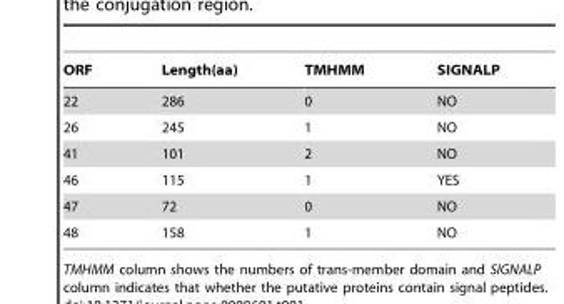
<table><thead><tr><td>ORF</td><td>Length(aa)</td><td>TMHMM</td><td>SIGNALP</td></tr></thead><tbody><tr><td>22</td><td>286</td><td>0</td><td>NO</td></tr><tr><td>26</td><td>245</td><td>1</td><td>NO</td></tr><tr><td>41</td><td>101</td><td>2</td><td>NO</td></tr><tr><td>46</td><td>115</td><td>1</td><td>YES</td></tr><tr><td>47</td><td>72</td><td>0</td><td>NO</td></tr><tr><td>48</td><td>158</td><td>1</td><td>NO</td></tr></tbody></table>